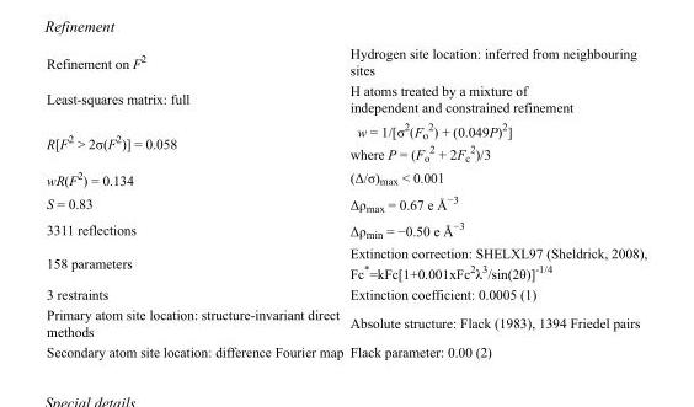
<table><tbody><tr><td>Refinement on F<sup>2</sup></td><td>Hydrogen site location: inferred from neighbouring sites</td></tr><tr><td>Least-squares matrix: full</td><td>H atoms treated by a mixture of independent and constrained refinement</td></tr><tr><td>R[F<sup>2</sup> &gt; 2σ(F<sup>2</sup>)] = 0.058</td><td>w = 1/[σ<sup>2</sup>(F<sub>o</sub> <sup>2</sup>) + (0.049P)<sup>2</sup>] where P = (F<sub>o</sub> <sup>2</sup> + 2F<sub>c</sub> <sup>2</sup>)/3</td></tr><tr><td>wR(F<sup>2</sup>) = 0.134</td><td>(Δ/σ)<sub>max</sub> &lt; 0.001</td></tr><tr><td>S = 0.83</td><td>Δρ<sub>max</sub> = 0.67 e Å<sup>−3</sup></td></tr><tr><td>3311 reflections</td><td>Δρ<sub>min</sub> = −0.50 e Å<sup>−3</sup></td></tr><tr><td>158 parameters</td><td>Extinction correction: SHELXL97 (Sheldrick, 2008), Fc*=kFc[1+0.001xFc<sup>2</sup>λ<sup>3</sup>/sin(2θ)]<sup>-1/4</sup></td></tr><tr><td>3 restraints</td><td>Extinction coefficient: 0.0005 (1)</td></tr><tr><td>Primary atom site location: structure-invariant direct methods</td><td>Absolute structure: Flack (1983), 1394 Friedel pairs</td></tr><tr><td>Secondary atom site location: difference Fourier map</td><td>Flack parameter: 0.00 (2)</td></tr></tbody></table>